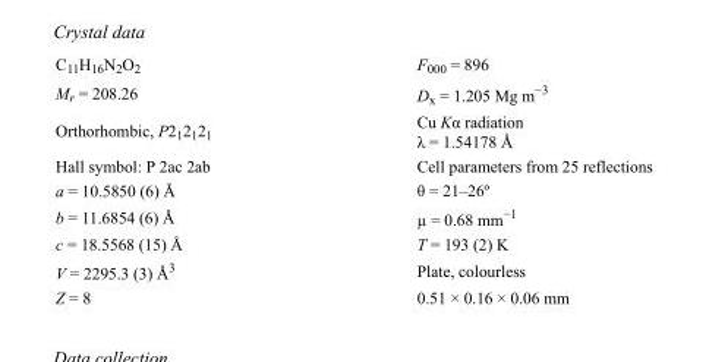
<table><tbody><tr><td>C<sub>11</sub>H<sub>16</sub>N<sub>2</sub>O<sub>2</sub></td><td>F000 = 896</td></tr><tr><td>M<sub>r</sub> = 208.26</td><td>D<sub>x</sub> = 1.205 Mg m<sup>−3</sup></td></tr><tr><td>Orthorhombic, P2<sub>1</sub>2<sub>1</sub>2<sub>1</sub></td><td>Cu Kα radiation λ = 1.54178 Å</td></tr><tr><td>Hall symbol: P 2ac 2ab</td><td>Cell parameters from 25 reflections</td></tr><tr><td>a = 10.5850 (6) Å</td><td>θ = 21–26º</td></tr><tr><td>b = 11.6854 (6) Å</td><td>µ = 0.68 mm<sup>−1</sup></td></tr><tr><td>c = 18.5568 (15) Å</td><td>T = 193 (2) K</td></tr><tr><td>V = 2295.3 (3) Å<sup>3</sup></td><td>Plate, colourless</td></tr><tr><td>Z = 8</td><td>0.51 × 0.16 × 0.06 mm</td></tr></tbody></table>